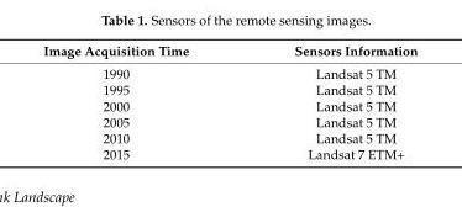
<table><thead><tr><td>Image Acquisition Time</td><td>Sensors Information</td></tr></thead><tbody><tr><td>1990</td><td>Landsat 5 TM</td></tr><tr><td>1995</td><td>Landsat 5 TM</td></tr><tr><td>2000</td><td>Landsat 5 TM</td></tr><tr><td>2005</td><td>Landsat 5 TM</td></tr><tr><td>2010</td><td>Landsat 5 TM</td></tr><tr><td>2015</td><td>Landsat 7 ETM+</td></tr></tbody></table>